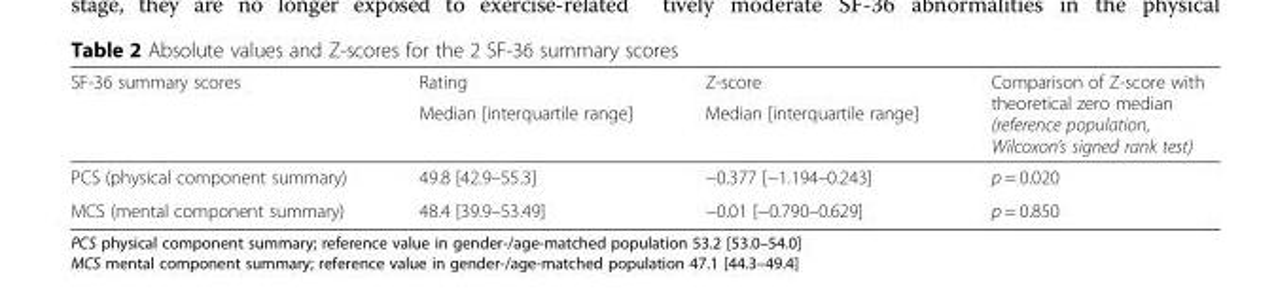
<table><thead><tr><td rowspan="2">SF-36 summary scores</td><td rowspan="2">Rating Median [interquartile range]</td><td rowspan="2">Z-score Median [interquartile range]</td><td rowspan="2">Comparison of Z-score with theoretical zero median (reference population, Wilcoxon’s signed rank test)</td></tr><tr></tr></thead><tbody><tr><td>PCS (physical component summary)</td><td>49.8 [42.9–55.3]</td><td>−0.377 [−1.194–0.243]</td><td>p = 0.020</td></tr><tr><td>MCS (mental component summary)</td><td>48.4 [39.9–53.49]</td><td>−0.01 [−0.790–0.629]</td><td>p = 0.850</td></tr></tbody></table>